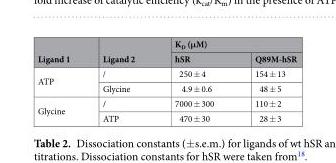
<table><thead><tr><td rowspan="2">Ligand 1</td><td rowspan="2">Ligand 2</td><td colspan="2">K<sub>D</sub> (μM)</td></tr><tr><td>hSR</td><td>Q89M-hSR</td></tr></thead><tbody><tr><td rowspan="2">ATP</td><td>/</td><td>250 ± 4</td><td>154 ± 13</td></tr><tr><td>Glycine</td><td>4.9 ± 0.6</td><td>48 ± 5</td></tr><tr><td rowspan="2">Glycine</td><td>/</td><td>7000 ± 300</td><td>110 ± 2</td></tr><tr><td>ATP</td><td>470 ± 30</td><td>28 ± 3</td></tr></tbody></table>